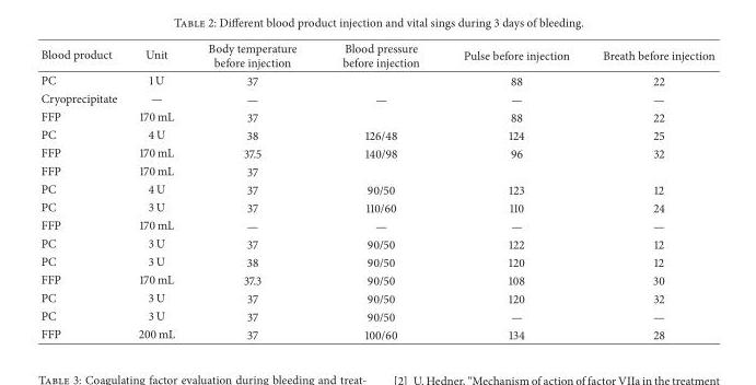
<table><thead><tr><td>Blood product</td><td>Unit</td><td>Body temperature before injection</td><td>Blood pressure before injection</td><td>Pulse before injection</td><td>Breath before injection</td></tr></thead><tbody><tr><td>PC</td><td>1 U</td><td>37</td><td></td><td>88</td><td>22</td></tr><tr><td>Cryoprecipitate</td><td>—</td><td>—</td><td>—</td><td>—</td><td>—</td></tr><tr><td>FFP</td><td>170 mL</td><td>37</td><td></td><td>88</td><td>22</td></tr><tr><td>PC</td><td>4 U</td><td>38</td><td>126/48</td><td>124</td><td>25</td></tr><tr><td>FFP</td><td>170 mL</td><td>37.5</td><td>140/98</td><td>96</td><td>32</td></tr><tr><td>FFP</td><td>170 mL</td><td>37</td><td></td><td></td><td></td></tr><tr><td>PC</td><td>4 U</td><td>37</td><td>90/50</td><td>123</td><td>12</td></tr><tr><td>PC</td><td>3 U</td><td>37</td><td>110/60</td><td>110</td><td>24</td></tr><tr><td>FFP</td><td>170 mL</td><td>—</td><td>—</td><td>—</td><td>—</td></tr><tr><td>PC</td><td>3 U</td><td>37</td><td>90/50</td><td>122</td><td>12</td></tr><tr><td>PC</td><td>3 U</td><td>38</td><td>90/50</td><td>120</td><td>12</td></tr><tr><td>FFP</td><td>170 mL</td><td>37.3</td><td>90/50</td><td>108</td><td>30</td></tr><tr><td>PC</td><td>3 U</td><td>37</td><td>90/50</td><td>120</td><td>32</td></tr><tr><td>PC</td><td>3 U</td><td>37</td><td>90/50</td><td>—</td><td>—</td></tr><tr><td>FFP</td><td>200 mL</td><td>37</td><td>100/60</td><td>134</td><td>28</td></tr></tbody></table>